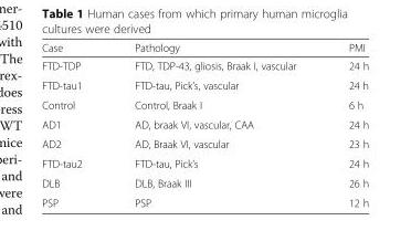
<table><thead><tr><td>Case</td><td>Pathology</td><td>PMI</td></tr></thead><tbody><tr><td>FTD-TDP</td><td>FTD, TDP-43, gliosis, Braak I, vascular</td><td>24 h</td></tr><tr><td>FTD-tau1</td><td>FTD-tau, Pick’s, vascular</td><td>24 h</td></tr><tr><td>Control</td><td>Control, Braak I</td><td>6 h</td></tr><tr><td>AD1</td><td>AD, braak VI, vascular, CAA</td><td>24 h</td></tr><tr><td>AD2</td><td>AD, Braak VI, vascular</td><td>23 h</td></tr><tr><td>FTD-tau2</td><td>FTD-tau, Pick’s</td><td>24 h</td></tr><tr><td>DLB</td><td>DLB, Braak III</td><td>26 h</td></tr><tr><td>PSP</td><td>PSP</td><td>12 h</td></tr></tbody></table>